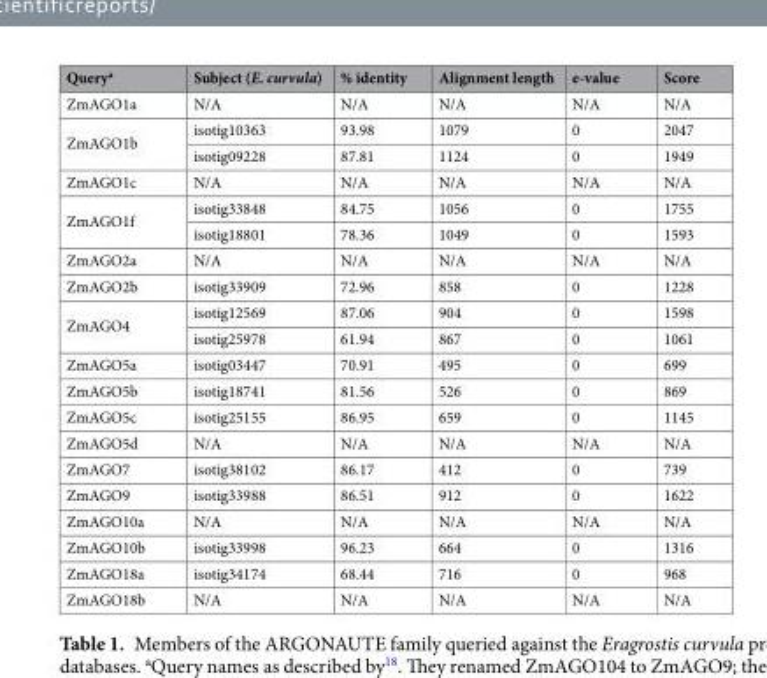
<table><thead><tr><td>Query<sup>a</sup></td><td>Subject (E. curvula)</td><td>% identity</td><td>Alignment length</td><td>e-value</td><td>Score</td></tr></thead><tbody><tr><td>ZmAGO1a</td><td>N/A</td><td>N/A</td><td>N/A</td><td>N/A</td><td>N/A</td></tr><tr><td rowspan="2">ZmAGO1b</td><td>isotig10363</td><td>93.98</td><td>1079</td><td>0</td><td>2047</td></tr><tr><td>isotig09228</td><td>87.81</td><td>1124</td><td>0</td><td>1949</td></tr><tr><td>ZmAGO1c</td><td>N/A</td><td>N/A</td><td>N/A</td><td>N/A</td><td>N/A</td></tr><tr><td rowspan="2">ZmAGO1f</td><td>isotig33848</td><td>84.75</td><td>1056</td><td>0</td><td>1755</td></tr><tr><td>isotig18801</td><td>78.36</td><td>1049</td><td>0</td><td>1593</td></tr><tr><td>ZmAGO2a</td><td>N/A</td><td>N/A</td><td>N/A</td><td>N/A</td><td>N/A</td></tr><tr><td>ZmAGO2b</td><td>isotig33909</td><td>72.96</td><td>858</td><td>0</td><td>1228</td></tr><tr><td rowspan="2">ZmAGO4</td><td>isotig12569</td><td>87.06</td><td>904</td><td>0</td><td>1598</td></tr><tr><td>isotig25978</td><td>61.94</td><td>867</td><td>0</td><td>1061</td></tr><tr><td>ZmAGO5a</td><td>isotig03447</td><td>70.91</td><td>495</td><td>0</td><td>699</td></tr><tr><td>ZmAGO5b</td><td>isotig18741</td><td>81.56</td><td>526</td><td>0</td><td>869</td></tr><tr><td>ZmAGO5c</td><td>isotig25155</td><td>86.95</td><td>659</td><td>0</td><td>1145</td></tr><tr><td>ZmAGO5d</td><td>N/A</td><td>N/A</td><td>N/A</td><td>N/A</td><td>N/A</td></tr><tr><td>ZmAGO7</td><td>isotig38102</td><td>86.17</td><td>412</td><td>0</td><td>739</td></tr><tr><td>ZmAGO9</td><td>isotig33988</td><td>86.51</td><td>912</td><td>0</td><td>1622</td></tr><tr><td>ZmAGO10a</td><td>N/A</td><td>N/A</td><td>N/A</td><td>N/A</td><td>N/A</td></tr><tr><td>ZmAGO10b</td><td>isotig33998</td><td>96.23</td><td>664</td><td>0</td><td>1316</td></tr><tr><td>ZmAGO18a</td><td>isotig34174</td><td>68.44</td><td>716</td><td>0</td><td>968</td></tr><tr><td>ZmAGO18b</td><td>N/A</td><td>N/A</td><td>N/A</td><td>N/A</td><td>N/A</td></tr></tbody></table>